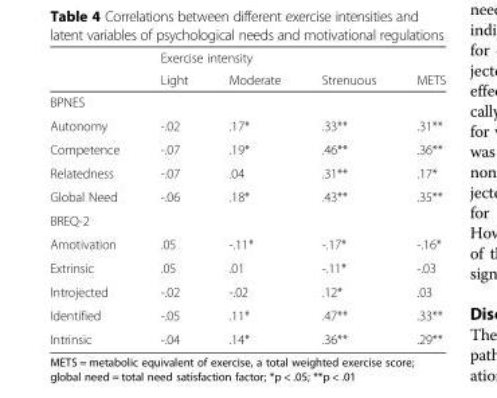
<table><thead><tr><td rowspan="2"></td><td colspan="4">Exercise intensity</td></tr><tr><td>Light</td><td>Moderate</td><td>Strenuous</td><td>METS</td></tr></thead><tbody><tr><td colspan="5">BPNES</td></tr><tr><td>Autonomy</td><td>-.02</td><td>.17*</td><td>.33**</td><td>.31**</td></tr><tr><td>Competence</td><td>-.07</td><td>.19*</td><td>.46**</td><td>.36**</td></tr><tr><td>Relatedness</td><td>-.07</td><td>.04</td><td>.31**</td><td>.17*</td></tr><tr><td>Global Need</td><td>-.06</td><td>.18*</td><td>.43**</td><td>.35**</td></tr><tr><td colspan="5">BREQ-2</td></tr><tr><td>Amotivation</td><td>.05</td><td>-.11*</td><td>-.17*</td><td>-.16*</td></tr><tr><td>Extrinsic</td><td>.05</td><td>.01</td><td>-.11*</td><td>-.03</td></tr><tr><td>Introjected</td><td>-.02</td><td>-.02</td><td>.12*</td><td>.03</td></tr><tr><td>Identified</td><td>-.05</td><td>.11*</td><td>.47**</td><td>.33**</td></tr><tr><td>Intrinsic</td><td>-.04</td><td>.14*</td><td>.36**</td><td>.29**</td></tr></tbody></table>